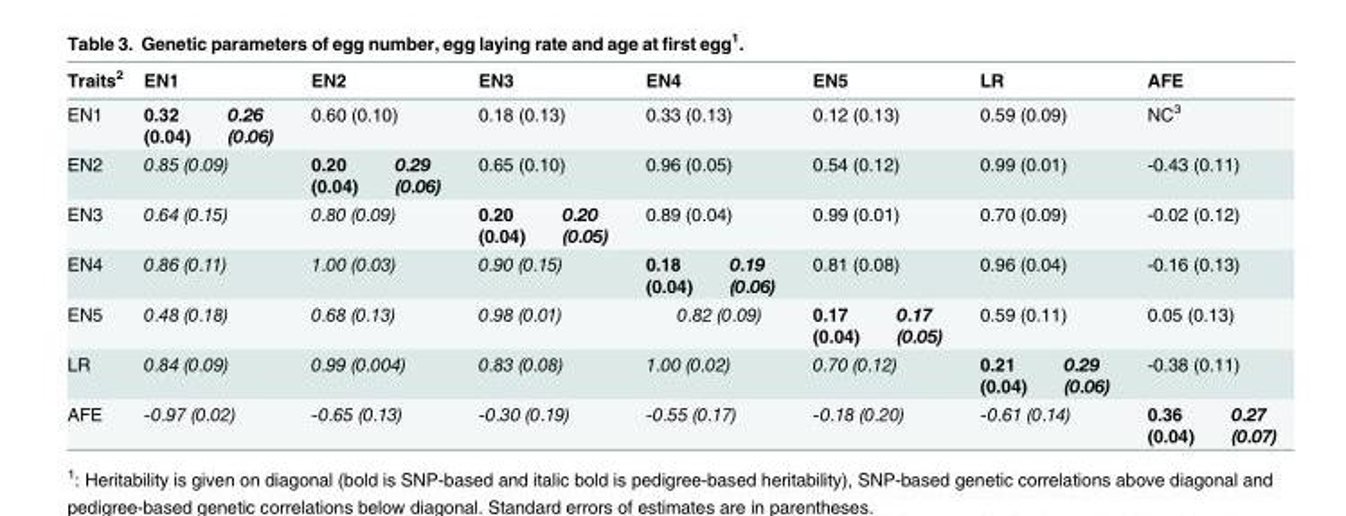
<table><thead><tr><td>Traits<sup>2</sup></td><td colspan="2">EN1</td><td colspan="2">EN2</td><td colspan="2">EN3</td><td colspan="2">EN4</td><td colspan="2">EN5</td><td colspan="2">LR</td><td colspan="2">AFE</td></tr></thead><tbody><tr><td>EN1</td><td>0.32 (0.04)</td><td>0.26 (0.06)</td><td colspan="2">0.60 (0.10)</td><td colspan="2">0.18 (0.13)</td><td colspan="2">0.33 (0.13)</td><td colspan="2">0.12 (0.13)</td><td colspan="2">0.59 (0.09)</td><td colspan="2">NC<sup>3</sup></td></tr><tr><td>EN2</td><td colspan="2">0.85 (0.09)</td><td>0.20 (0.04)</td><td>0.29 (0.06)</td><td colspan="2">0.65 (0.10)</td><td colspan="2">0.96 (0.05)</td><td colspan="2">0.54 (0.12)</td><td colspan="2">0.99 (0.01)</td><td colspan="2">-0.43 (0.11)</td></tr><tr><td>EN3</td><td colspan="2">0.64 (0.15)</td><td colspan="2">0.80 (0.09)</td><td>0.20 (0.04)</td><td>0.20 (0.05)</td><td colspan="2">0.89 (0.04)</td><td colspan="2">0.99 (0.01)</td><td colspan="2">0.70 (0.09)</td><td colspan="2">-0.02 (0.12)</td></tr><tr><td>EN4</td><td colspan="2">0.86 (0.11)</td><td colspan="2">1.00 (0.03)</td><td colspan="2">0.90 (0.15)</td><td>0.18 (0.04)</td><td>0.19 (0.06)</td><td colspan="2">0.81 (0.08)</td><td colspan="2">0.96 (0.04)</td><td colspan="2">-0.16 (0.13)</td></tr><tr><td>EN5</td><td colspan="2">0.48 (0.18)</td><td colspan="2">0.68 (0.13)</td><td colspan="2">0.98 (0.01)</td><td colspan="2">0.82 (0.09)</td><td>0.17 (0.04)</td><td>0.17 (0.05)</td><td colspan="2">0.59 (0.11)</td><td colspan="2">0.05 (0.13)</td></tr><tr><td>LR</td><td colspan="2">0.84 (0.09)</td><td colspan="2">0.99 (0.004)</td><td colspan="2">0.83 (0.08)</td><td colspan="2">1.00 (0.02)</td><td colspan="2">0.70 (0.12)</td><td>0.21 (0.04)</td><td>0.29 (0.06)</td><td colspan="2">-0.38 (0.11)</td></tr><tr><td>AFE</td><td colspan="2">-0.97 (0.02)</td><td colspan="2">-0.65 (0.13)</td><td colspan="2">-0.30 (0.19)</td><td colspan="2">-0.55 (0.17)</td><td colspan="2">-0.18 (0.20)</td><td colspan="2">-0.61 (0.14)</td><td>0.36 (0.04)</td><td>0.27 (0.07)</td></tr></tbody></table>